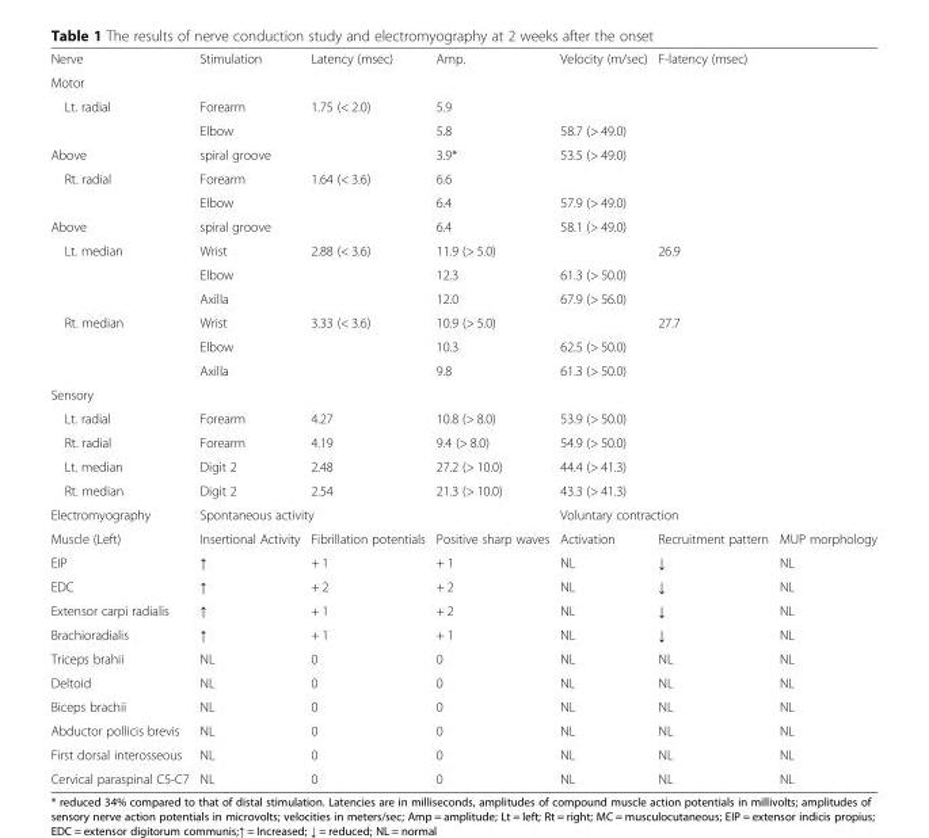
<table><tbody><tr><td>Nerve</td><td>Stimulation</td><td>Latency (msec)</td><td>Amp.</td><td>Velocity (m/sec)</td><td colspan="2">F-latency (msec)</td></tr><tr><td colspan="7">Motor</td></tr><tr><td rowspan="2">Lt. radial</td><td>Forearm</td><td>1.75 (&lt; 2.0)</td><td>5.9</td><td></td><td colspan="2"></td></tr><tr><td>Elbow</td><td></td><td>5.8</td><td>58.7 (&gt; 49.0)</td><td colspan="2"></td></tr><tr><td>Above</td><td>spiral groove</td><td></td><td>3.9*</td><td>53.5 (&gt; 49.0)</td><td colspan="2"></td></tr><tr><td rowspan="2">Rt. radial</td><td>Forearm</td><td>1.64 (&lt; 3.6)</td><td>6.6</td><td></td><td colspan="2"></td></tr><tr><td>Elbow</td><td></td><td>6.4</td><td>57.9 (&gt; 49.0)</td><td colspan="2"></td></tr><tr><td>Above</td><td>spiral groove</td><td></td><td>6.4</td><td>58.1 (&gt; 49.0)</td><td colspan="2"></td></tr><tr><td rowspan="3">Lt. median</td><td>Wrist</td><td>2.88 (&lt; 3.6)</td><td>11.9 (&gt; 5.0)</td><td></td><td colspan="2">26.9</td></tr><tr><td>Elbow</td><td></td><td>12.3</td><td>61.3 (&gt; 50.0)</td><td colspan="2"></td></tr><tr><td>Axilla</td><td></td><td>12.0</td><td>67.9 (&gt; 56.0)</td><td colspan="2"></td></tr><tr><td rowspan="3">Rt. median</td><td>Wrist</td><td>3.33 (&lt; 3.6)</td><td>10.9 (&gt; 5.0)</td><td></td><td colspan="2">27.7</td></tr><tr><td>Elbow</td><td></td><td>10.3</td><td>62.5 (&gt; 50.0)</td><td colspan="2"></td></tr><tr><td>Axilla</td><td></td><td>9.8</td><td>61.3 (&gt; 50.0)</td><td colspan="2"></td></tr><tr><td colspan="7">Sensory</td></tr><tr><td>Lt. radial</td><td>Forearm</td><td>4.27</td><td>10.8 (&gt; 8.0)</td><td>53.9 (&gt; 50.0)</td><td colspan="2"></td></tr><tr><td>Rt. radial</td><td>Forearm</td><td>4.19</td><td>9.4 (&gt; 8.0)</td><td>54.9 (&gt; 50.0)</td><td colspan="2"></td></tr><tr><td>Lt. median</td><td>Digit 2</td><td>2.48</td><td>27.2 (&gt; 10.0)</td><td>44.4 (&gt; 41.3)</td><td colspan="2"></td></tr><tr><td>Rt. median</td><td>Digit 2</td><td>2.54</td><td>21.3 (&gt; 10.0)</td><td>43.3 (&gt; 41.3)</td><td colspan="2"></td></tr><tr><td>Electromyography</td><td colspan="3">Spontaneous activity</td><td colspan="3">Voluntary contraction</td></tr><tr><td>Muscle (Left)</td><td>Insertional Activity</td><td>Fibrillation potentials</td><td>Positive sharp waves</td><td>Activation</td><td>Recruitment pattern</td><td>MUP morphology</td></tr><tr><td>EIP</td><td>↑</td><td>+ 1</td><td>+ 1</td><td>NL</td><td>↓</td><td>NL</td></tr><tr><td>EDC</td><td>↑</td><td>+ 2</td><td>+ 2</td><td>NL</td><td>↓</td><td>NL</td></tr><tr><td>Extensor carpi radialis</td><td>↑</td><td>+ 1</td><td>+ 2</td><td>NL</td><td>↓</td><td>NL</td></tr><tr><td>Brachioradialis</td><td>↑</td><td>+ 1</td><td>+ 1</td><td>NL</td><td>↓</td><td>NL</td></tr><tr><td>Triceps brahii</td><td>NL</td><td>0</td><td>0</td><td>NL</td><td>NL</td><td>NL</td></tr><tr><td>Deltoid</td><td>NL</td><td>0</td><td>0</td><td>NL</td><td>NL</td><td>NL</td></tr><tr><td>Biceps brachii</td><td>NL</td><td>0</td><td>0</td><td>NL</td><td>NL</td><td>NL</td></tr><tr><td>Abductor pollicis brevis</td><td>NL</td><td>0</td><td>0</td><td>NL</td><td>NL</td><td>NL</td></tr><tr><td>First dorsal interosseous</td><td>NL</td><td>0</td><td>0</td><td>NL</td><td>NL</td><td>NL</td></tr><tr><td>Cervical paraspinal C5-C7</td><td>NL</td><td>0</td><td>0</td><td>NL</td><td>NL</td><td>NL</td></tr></tbody></table>